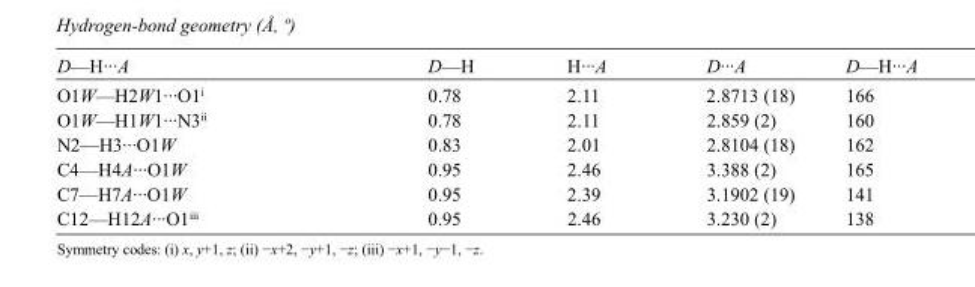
<table><tbody><tr><td>D—H···A</td><td>D—H</td><td>H···A</td><td>D···A</td><td>D—H···A</td></tr><tr><td>O1W—H2W1···O1<sup>i</sup></td><td>0.78</td><td>2.11</td><td>2.8713 (18)</td><td>166</td></tr><tr><td>O1W—H1W1···N3<sup>ii</sup></td><td>0.78</td><td>2.11</td><td>2.859 (2)</td><td>160</td></tr><tr><td>N2—H3···O1W</td><td>0.83</td><td>2.01</td><td>2.8104 (18)</td><td>162</td></tr><tr><td>C4—H4A···O1W</td><td>0.95</td><td>2.46</td><td>3.388 (2)</td><td>165</td></tr><tr><td>C7—H7A···O1W</td><td>0.95</td><td>2.39</td><td>3.1902 (19)</td><td>141</td></tr><tr><td>C12—H12A···O1<sup>iii</sup></td><td>0.95</td><td>2.46</td><td>3.230 (2)</td><td>138</td></tr></tbody></table>